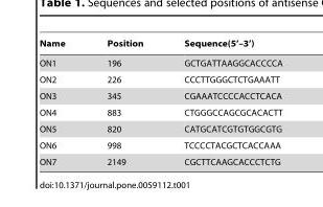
<table><thead><tr><td>Name</td><td>Position</td><td>Sequence(5’–3’)</td></tr></thead><tbody><tr><td>ON1</td><td>196</td><td>GCTGATTAAGGCACCCCA</td></tr><tr><td>ON2</td><td>226</td><td>CCCTTGGGCTCTGAAATT</td></tr><tr><td>ON3</td><td>345</td><td>CGAAATCCCCACCTCACA</td></tr><tr><td>ON4</td><td>883</td><td>CTGGGCCAGCGCACACTT</td></tr><tr><td>ON5</td><td>820</td><td>CATGCATCGTGTGGCGTG</td></tr><tr><td>ON6</td><td>998</td><td>TCCCCTACGCTCACCAAA</td></tr><tr><td>ON7</td><td>2149</td><td>CGCTTCAAGCACCCTCTG</td></tr></tbody></table>